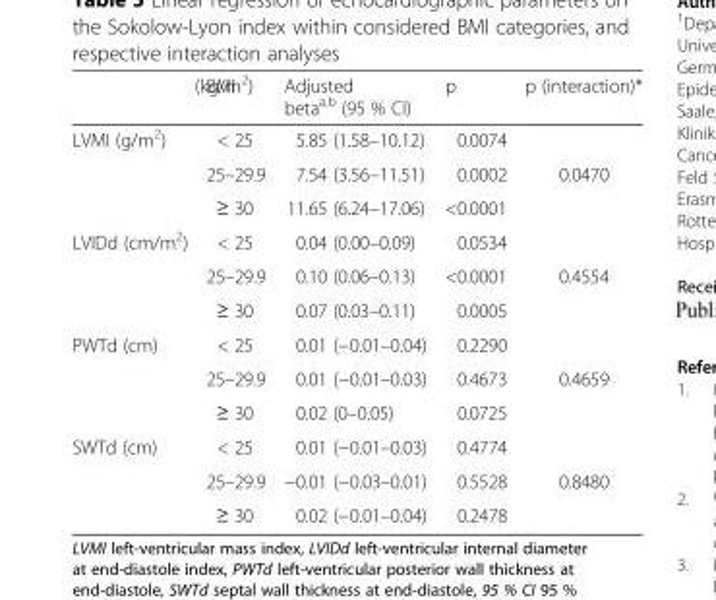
<table><thead><tr><td></td><td>BMI (kg/m<sup>2</sup>)</td><td>Adjusted beta<sup>a,b</sup> (95 % CI)</td><td>p</td><td>p (interaction)*</td></tr></thead><tbody><tr><td rowspan="3">LVMI (g/m<sup>2</sup>)</td><td>&lt; 25</td><td>5.85 (1.58–10.12)</td><td>0.0074</td><td></td></tr><tr><td>25–29.9</td><td>7.54 (3.56–11.51)</td><td>0.0002</td><td>0.0470</td></tr><tr><td>≥ 30</td><td>11.65 (6.24–17.06)</td><td>&lt;0.0001</td><td></td></tr><tr><td rowspan="3">LVIDd (cm/m<sup>2</sup>)</td><td>&lt; 25</td><td>0.04 (0.00–0.09)</td><td>0.0534</td><td></td></tr><tr><td>25–29.9</td><td>0.10 (0.06–0.13)</td><td>&lt;0.0001</td><td>0.4554</td></tr><tr><td>≥ 30</td><td>0.07 (0.03–0.11)</td><td>0.0005</td><td></td></tr><tr><td rowspan="3">PWTd (cm)</td><td>&lt; 25</td><td>0.01 (−0.01–0.04)</td><td>0.2290</td><td></td></tr><tr><td>25–29.9</td><td>0.01 (−0.01–0.03)</td><td>0.4673</td><td>0.4659</td></tr><tr><td>≥ 30</td><td>0.02 (0–0.05)</td><td>0.0725</td><td></td></tr><tr><td rowspan="3">SWTd (cm)</td><td>&lt; 25</td><td>0.01 (−0.01–0.03)</td><td>0.4774</td><td></td></tr><tr><td>25–29.9</td><td>−0.01 (−0.03–0.01)</td><td>0.5528</td><td>0.8480</td></tr><tr><td>≥ 30</td><td>0.02 (−0.01–0.04)</td><td>0.2478</td><td></td></tr></tbody></table>